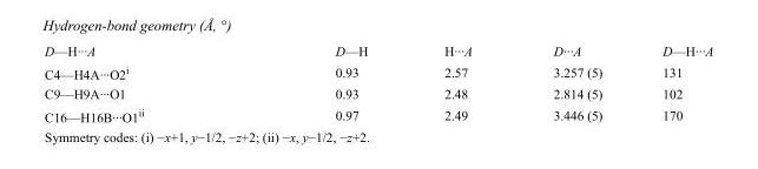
<table><tbody><tr><td>D—H···A</td><td>D—H</td><td>H···A</td><td>D···A</td><td>D—H···A</td></tr><tr><td>C4—H4A···O2<sup>i</sup></td><td>0.93</td><td>2.57</td><td>3.257 (5)</td><td>131</td></tr><tr><td>C9—H9A···O1</td><td>0.93</td><td>2.48</td><td>2.814 (5)</td><td>102</td></tr><tr><td>C16—H16B···O1<sup>ii</sup></td><td>0.97</td><td>2.49</td><td>3.446 (5)</td><td>170</td></tr></tbody></table>